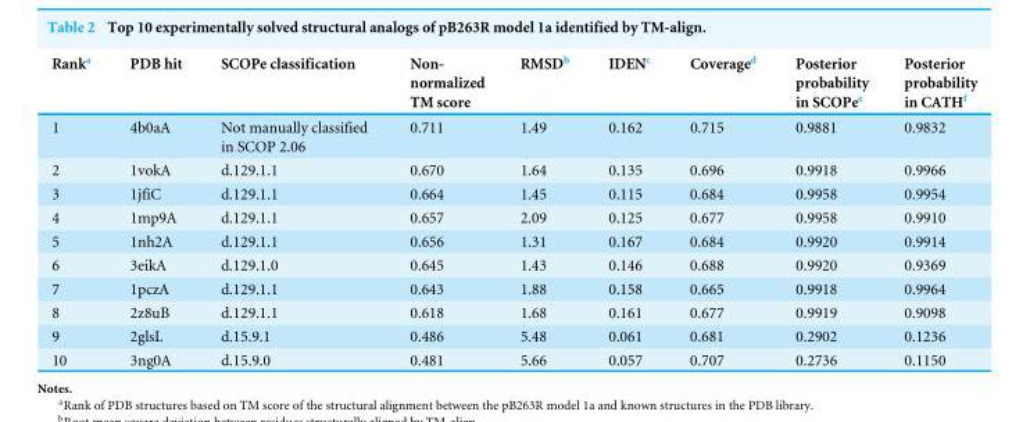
<table><thead><tr><td>Rank<sup>a</sup></td><td>PDB hit</td><td>SCOPe classification</td><td>Non- normalized TM score</td><td>RMSD<sup>b</sup></td><td>IDEN<sup>c</sup></td><td>Coverage<sup>d</sup></td><td>Posterior probability in SCOPe<sup>e</sup></td><td>Posterior probability in CATH<sup>f</sup></td></tr></thead><tbody><tr><td>1</td><td>4b0aA</td><td>Not manually classified in SCOP 2.06</td><td>0.711</td><td>1.49</td><td>0.162</td><td>0.715</td><td>0.9881</td><td>0.9832</td></tr><tr><td>2</td><td>1vokA</td><td>d.129.1.1</td><td>0.670</td><td>1.64</td><td>0.135</td><td>0.696</td><td>0.9918</td><td>0.9966</td></tr><tr><td>3</td><td>1jfiC</td><td>d.129.1.1</td><td>0.664</td><td>1.45</td><td>0.115</td><td>0.684</td><td>0.9958</td><td>0.9954</td></tr><tr><td>4</td><td>1mp9A</td><td>d.129.1.1</td><td>0.657</td><td>2.09</td><td>0.125</td><td>0.677</td><td>0.9958</td><td>0.9910</td></tr><tr><td>5</td><td>1nh2A</td><td>d.129.1.1</td><td>0.656</td><td>1.31</td><td>0.167</td><td>0.684</td><td>0.9920</td><td>0.9914</td></tr><tr><td>6</td><td>3eikA</td><td>d.129.1.0</td><td>0.645</td><td>1.43</td><td>0.146</td><td>0.688</td><td>0.9920</td><td>0.9369</td></tr><tr><td>7</td><td>1pczA</td><td>d.129.1.1</td><td>0.643</td><td>1.88</td><td>0.158</td><td>0.665</td><td>0.9918</td><td>0.9964</td></tr><tr><td>8</td><td>2z8uB</td><td>d.129.1.1</td><td>0.618</td><td>1.68</td><td>0.161</td><td>0.677</td><td>0.9919</td><td>0.9098</td></tr><tr><td>9</td><td>2glsL</td><td>d.15.9.1</td><td>0.486</td><td>5.48</td><td>0.061</td><td>0.681</td><td>0.2902</td><td>0.1236</td></tr><tr><td>10</td><td>3ng0A</td><td>d.15.9.0</td><td>0.481</td><td>5.66</td><td>0.057</td><td>0.707</td><td>0.2736</td><td>0.1150</td></tr></tbody></table>